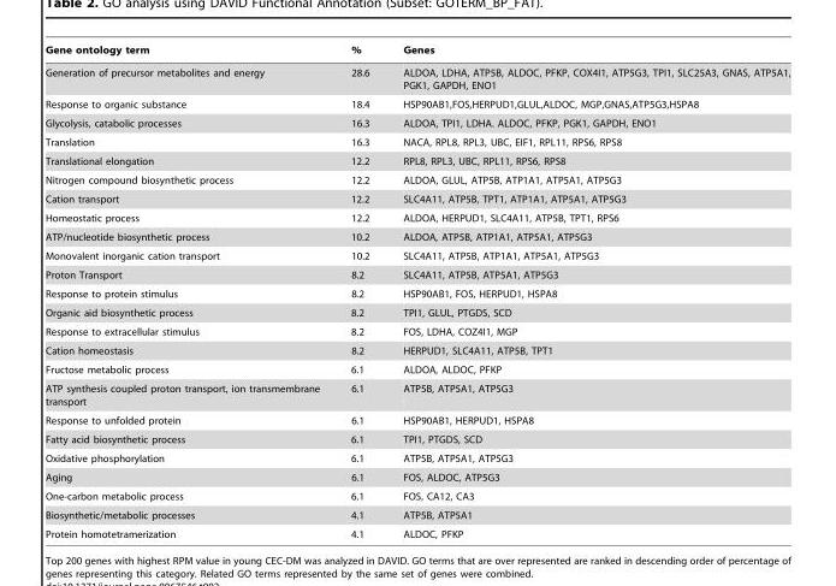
<table><thead><tr><td>Gene ontology term</td><td>%</td><td>Genes</td></tr></thead><tbody><tr><td>Generation of precursor metabolites and energy</td><td>28.6</td><td>ALDOA, LDHA, ATP5B, ALDOC, PFKP, COX4I1, ATP5G3, TPI1, SLC25A3, GNAS, ATP5A1, PGK1, GAPDH, ENO1</td></tr><tr><td>Response to organic substance</td><td>18.4</td><td>HSP90AB1,FOS,HERPUD1,GLUL,ALDOC, MGP,GNAS,ATP5G3,HSPA8</td></tr><tr><td>Glycolysis, catabolic processes</td><td>16.3</td><td>ALDOA, TPI1, LDHA. ALDOC, PFKP, PGK1, GAPDH, ENO1</td></tr><tr><td>Translation</td><td>16.3</td><td>NACA, RPL8, RPL3, UBC, EIF1, RPL11, RPS6, RPS8</td></tr><tr><td>Translational elongation</td><td>12.2</td><td>RPL8, RPL3, UBC, RPL11, RPS6, RPS8</td></tr><tr><td>Nitrogen compound biosynthetic process</td><td>12.2</td><td>ALDOA, GLUL, ATP5B, ATP1A1, ATP5A1, ATP5G3</td></tr><tr><td>Cation transport</td><td>12.2</td><td>SLC4A11, ATP5B, TPT1, ATP1A1, ATP5A1, ATP5G3</td></tr><tr><td>Homeostatic process</td><td>12.2</td><td>ALDOA, HERPUD1, SLC4A11, ATP5B, TPT1, RPS6</td></tr><tr><td>ATP/nucleotide biosynthetic process</td><td>10.2</td><td>ALDOA, ATP5B, ATP1A1, ATP5A1, ATP5G3</td></tr><tr><td>Monovalent inorganic cation transport</td><td>10.2</td><td>SLC4A11, ATP5B, ATP1A1, ATP5A1, ATP5G3</td></tr><tr><td>Proton Transport</td><td>8.2</td><td>SLC4A11, ATP5B, ATP5A1, ATP5G3</td></tr><tr><td>Response to protein stimulus</td><td>8.2</td><td>HSP90AB1, FOS, HERPUD1, HSPA8</td></tr><tr><td>Organic aid biosynthetic process</td><td>8.2</td><td>TPI1, GLUL, PTGDS, SCD</td></tr><tr><td>Response to extracellular stimulus</td><td>8.2</td><td>FOS, LDHA, COZ4I1, MGP</td></tr><tr><td>Cation homeostasis</td><td>8.2</td><td>HERPUD1, SLC4A11, ATP5B, TPT1</td></tr><tr><td>Fructose metabolic process</td><td>6.1</td><td>ALDOA, ALDOC, PFKP</td></tr><tr><td>ATP synthesis coupled proton transport, ion transmembrane transport</td><td>6.1</td><td>ATP5B, ATP5A1, ATP5G3</td></tr><tr><td>Response to unfolded protein</td><td>6.1</td><td>HSP90AB1, HERPUD1, HSPA8</td></tr><tr><td>Fatty acid biosynthetic process</td><td>6.1</td><td>TPI1, PTGDS, SCD</td></tr><tr><td>Oxidative phosphorylation</td><td>6.1</td><td>ATP5B, ATP5A1, ATP5G3</td></tr><tr><td>Aging</td><td>6.1</td><td>FOS, ALDOC, ATP5G3</td></tr><tr><td>One-carbon metabolic process</td><td>6.1</td><td>FOS, CA12, CA3</td></tr><tr><td>Biosynthetic/metabolic processes</td><td>4.1</td><td>ATP5B, ATP5A1</td></tr><tr><td>Protein homotetramerization</td><td>4.1</td><td>ALDOC, PFKP</td></tr></tbody></table>